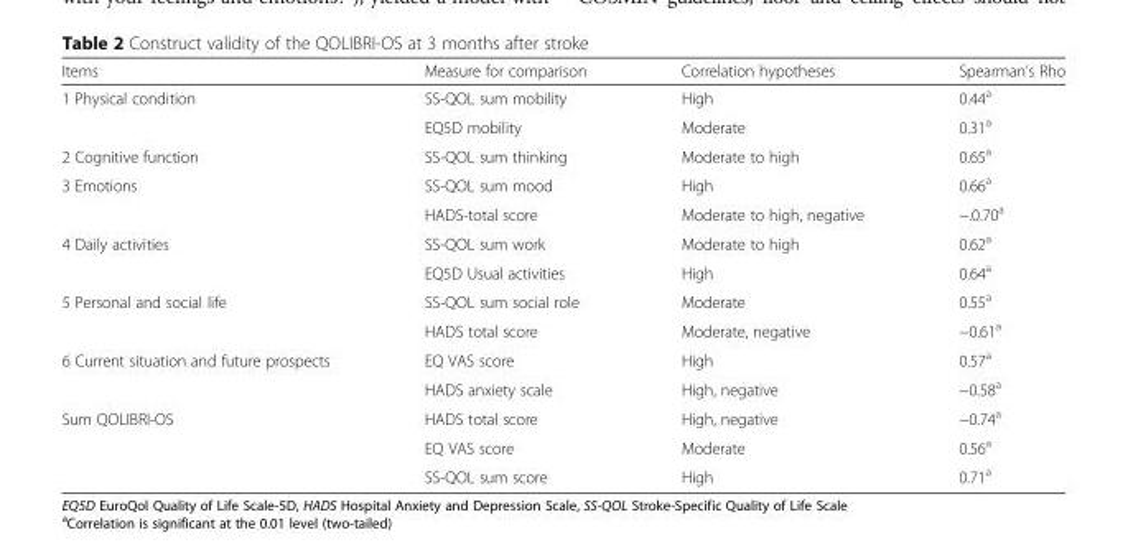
<table><thead><tr><td>Items</td><td>Measure for comparison</td><td>Correlation hypotheses</td><td>Spearman’s Rho</td></tr></thead><tbody><tr><td rowspan="2">1 Physical condition</td><td>SS-QOL sum mobility</td><td>High</td><td>0.44<sup>a</sup></td></tr><tr><td>EQ5D mobility</td><td>Moderate</td><td>0.31<sup>a</sup></td></tr><tr><td>2 Cognitive function</td><td>SS-QOL sum thinking</td><td>Moderate to high</td><td>0.65<sup>a</sup></td></tr><tr><td rowspan="2">3 Emotions</td><td>SS-QOL sum mood</td><td>High</td><td>0.66<sup>a</sup></td></tr><tr><td>HADS-total score</td><td>Moderate to high, negative</td><td>−.0.70<sup>a</sup></td></tr><tr><td rowspan="2">4 Daily activities</td><td>SS-QOL sum work</td><td>Moderate to high</td><td>0.62<sup>a</sup></td></tr><tr><td>EQ5D Usual activities</td><td>High</td><td>0.64<sup>a</sup></td></tr><tr><td rowspan="2">5 Personal and social life</td><td>SS-QOL sum social role</td><td>Moderate</td><td>0.55<sup>a</sup></td></tr><tr><td>HADS total score</td><td>Moderate, negative</td><td>−0.61<sup>a</sup></td></tr><tr><td rowspan="2">6 Current situation and future prospects</td><td>EQ VAS score</td><td>High</td><td>0.57<sup>a</sup></td></tr><tr><td>HADS anxiety scale</td><td>High, negative</td><td>−0.58<sup>a</sup></td></tr><tr><td rowspan="3">Sum QOLIBRI-OS</td><td>HADS total score</td><td>High, negative</td><td>−0.74<sup>a</sup></td></tr><tr><td>EQ VAS score</td><td>Moderate</td><td>0.56<sup>a</sup></td></tr><tr><td>SS-QOL sum score</td><td>High</td><td>0.71<sup>a</sup></td></tr></tbody></table>